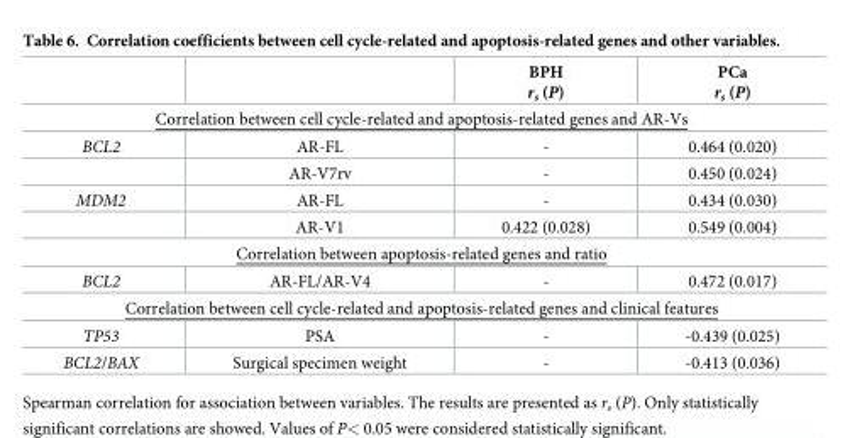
<table><thead><tr><td></td><td></td><td>BPH r<sub>s</sub> (P)</td><td>PCa r<sub>s</sub> (P)</td></tr></thead><tbody><tr><td colspan="4">Correlation between cell cycle-related and apoptosis-related genes and AR-Vs</td></tr><tr><td rowspan="2">BCL2</td><td>AR-FL</td><td>-</td><td>0.464 (0.020)</td></tr><tr><td>AR-V7rv</td><td>-</td><td>0.450 (0.024)</td></tr><tr><td rowspan="2">MDM2</td><td>AR-FL</td><td>-</td><td>0.434 (0.030)</td></tr><tr><td>AR-V1</td><td>0.422 (0.028)</td><td>0.549 (0.004)</td></tr><tr><td colspan="4">Correlation between apoptosis-related genes and ratio</td></tr><tr><td>BCL2</td><td>AR-FL/AR-V4</td><td>-</td><td>0.472 (0.017)</td></tr><tr><td colspan="4">Correlation between cell cycle-related and apoptosis-related genes and clinical features</td></tr><tr><td>TP53</td><td>PSA</td><td>-</td><td>-0.439 (0.025)</td></tr><tr><td>BCL2/BAX</td><td>Surgical specimen weight</td><td>-</td><td>-0.413 (0.036)</td></tr></tbody></table>